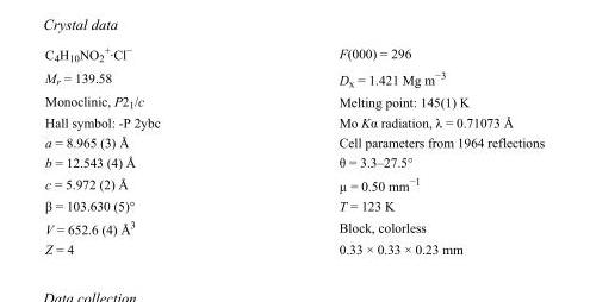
<table><tbody><tr><td>C<sub>4</sub>H<sub>10</sub>NO<sub>2</sub> <sup>+</sup>·Cl<sup>−</sup></td><td>F(000) = 296</td></tr><tr><td>M<sub>r</sub> = 139.58</td><td>D<sub>x</sub> = 1.421 Mg m<sup>−3</sup></td></tr><tr><td>Monoclinic, P2<sub>1</sub>/c</td><td>Melting point: 145(1) K</td></tr><tr><td>Hall symbol: -P 2ybc</td><td>Mo Kα radiation, λ = 0.71073 Å</td></tr><tr><td>a = 8.965 (3) Å</td><td>Cell parameters from 1964 reflections</td></tr><tr><td>b = 12.543 (4) Å</td><td>θ = 3.3–27.5°</td></tr><tr><td>c = 5.972 (2) Å</td><td>µ = 0.50 mm<sup>−1</sup></td></tr><tr><td>β = 103.630 (5)°</td><td>T = 123 K</td></tr><tr><td>V = 652.6 (4) Å<sup>3</sup></td><td>Block, colorless</td></tr><tr><td>Z = 4</td><td>0.33 × 0.33 × 0.23 mm</td></tr></tbody></table>